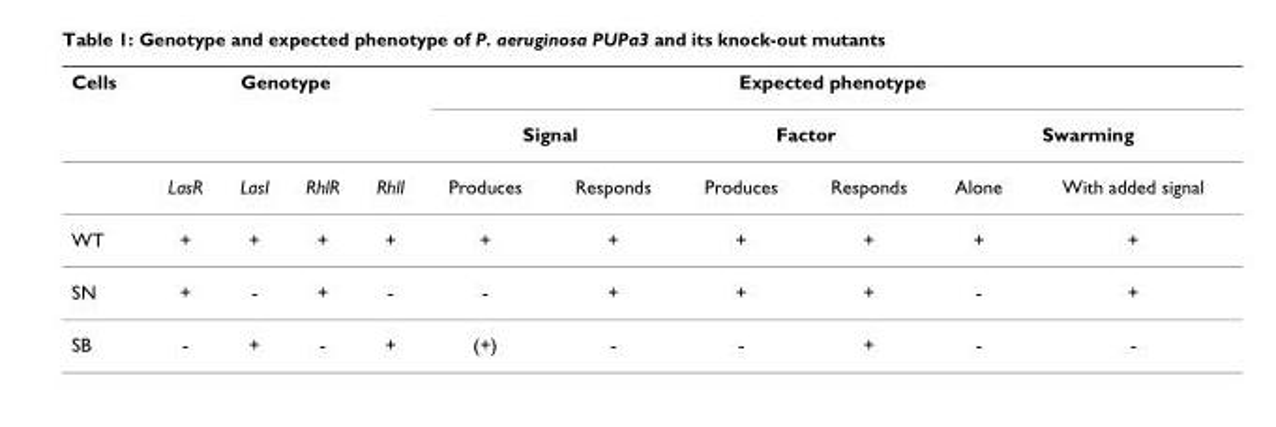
<table><thead><tr><td rowspan="3">Cells</td><td colspan="4">Genotype</td><td colspan="6">Expected phenotype</td></tr><tr><td rowspan="2">LasR</td><td rowspan="2">LasI</td><td rowspan="2">RhlR</td><td rowspan="2">RhlI</td><td colspan="2">Signal</td><td colspan="2">Factor</td><td colspan="2">Swarming</td></tr><tr><td>Produces</td><td>Responds</td><td>Produces</td><td>Responds</td><td>Alone</td><td>With added signal</td></tr></thead><tbody><tr><td>WT</td><td>+</td><td>+</td><td>+</td><td>+</td><td>+</td><td>+</td><td>+</td><td>+</td><td>+</td><td>+</td></tr><tr><td>SN</td><td>+</td><td>-</td><td>+</td><td>-</td><td>-</td><td>+</td><td>+</td><td>+</td><td>-</td><td>+</td></tr><tr><td>SB</td><td>-</td><td>+</td><td>-</td><td>+</td><td>(+)</td><td>-</td><td>-</td><td>+</td><td>-</td><td>-</td></tr></tbody></table>